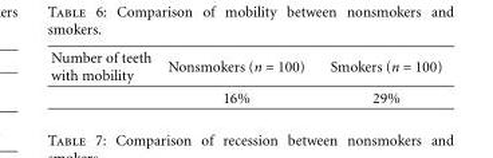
<table><thead><tr><td>Number of teeth with mobility</td><td>Nonsmokers (n = 100)</td><td>Smokers (n = 100)</td></tr></thead><tbody><tr><td></td><td>16%</td><td>29%</td></tr></tbody></table>